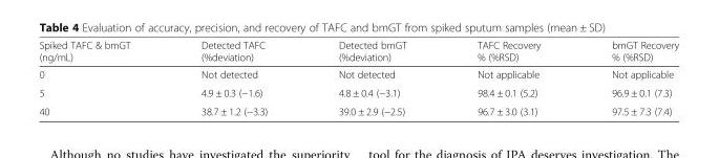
<table><thead><tr><td>Spiked TAFC &amp; bmGT (ng/mL)</td><td>Detected TAFC (%deviation)</td><td>Detected bmGT (%deviation)</td><td>TAFC Recovery % (%RSD)</td><td>bmGT Recovery % (%RSD)</td></tr></thead><tbody><tr><td>0</td><td>Not detected</td><td>Not detected</td><td>Not applicable</td><td>Not applicable</td></tr><tr><td>5</td><td>4.9 ± 0.3 (−1.6)</td><td>4.8 ± 0.4 (−3.1)</td><td>98.4 ± 0.1 (5.2)</td><td>96.9 ± 0.1 (7.3)</td></tr><tr><td>40</td><td>38.7 ± 1.2 (−3.3)</td><td>39.0 ± 2.9 (−2.5)</td><td>96.7 ± 3.0 (3.1)</td><td>97.5 ± 7.3 (7.4)</td></tr></tbody></table>